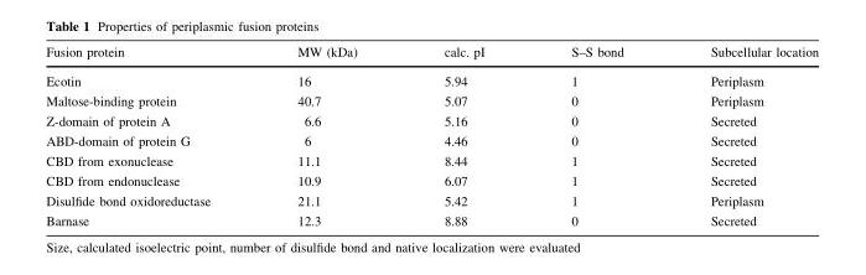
<table><thead><tr><td>Fusion protein</td><td>MW (kDa)</td><td>calc. pI</td><td>S–S bond</td><td>Subcellular location</td></tr></thead><tbody><tr><td>Ecotin</td><td>16</td><td>5.94</td><td>1</td><td>Periplasm</td></tr><tr><td>Maltose-binding protein</td><td>40.7</td><td>5.07</td><td>0</td><td>Periplasm</td></tr><tr><td>Z-domain of protein A</td><td>6.6</td><td>5.16</td><td>0</td><td>Secreted</td></tr><tr><td>ABD-domain of protein G</td><td>6</td><td>4.46</td><td>0</td><td>Secreted</td></tr><tr><td>CBD from exonuclease</td><td>11.1</td><td>8.44</td><td>1</td><td>Secreted</td></tr><tr><td>CBD from endonuclease</td><td>10.9</td><td>6.07</td><td>1</td><td>Secreted</td></tr><tr><td>Disulfide bond oxidoreductase</td><td>21.1</td><td>5.42</td><td>1</td><td>Periplasm</td></tr><tr><td>Barnase</td><td>12.3</td><td>8.88</td><td>0</td><td>Secreted</td></tr></tbody></table>